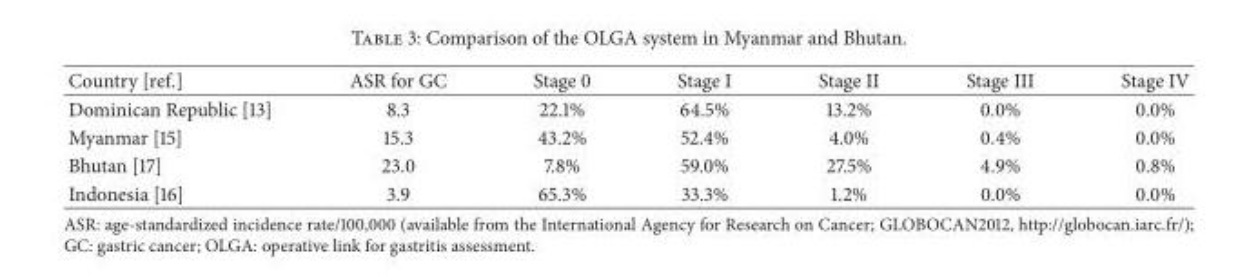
<table><thead><tr><td>Country [ref.]</td><td>ASR for GC</td><td>Stage 0</td><td>Stage I</td><td>Stage II</td><td>Stage III</td><td>Stage IV</td></tr></thead><tbody><tr><td>Dominican Republic [13]</td><td>8.3</td><td>22.1%</td><td>64.5%</td><td>13.2%</td><td>0.0%</td><td>0.0%</td></tr><tr><td>Myanmar [15]</td><td>15.3</td><td>43.2%</td><td>52.4%</td><td>4.0%</td><td>0.4%</td><td>0.0%</td></tr><tr><td>Bhutan [17]</td><td>23.0</td><td>7.8%</td><td>59.0%</td><td>27.5%</td><td>4.9%</td><td>0.8%</td></tr><tr><td>Indonesia [16]</td><td>3.9</td><td>65.3%</td><td>33.3%</td><td>1.2%</td><td>0.0%</td><td>0.0%</td></tr></tbody></table>